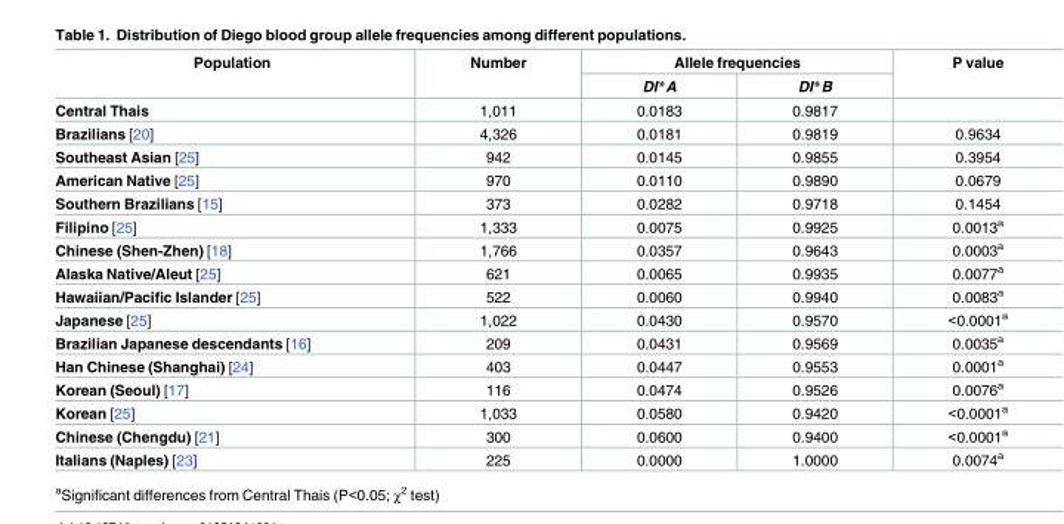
<table><thead><tr><td rowspan="2">Population</td><td rowspan="2">Number</td><td colspan="2">Allele frequencies</td><td rowspan="2">P value</td></tr><tr><td>DI*A</td><td>DI*B</td></tr></thead><tbody><tr><td>Central Thais</td><td>1,011</td><td>0.0183</td><td>0.9817</td><td></td></tr><tr><td>Brazilians [20]</td><td>4,326</td><td>0.0181</td><td>0.9819</td><td>0.9634</td></tr><tr><td>Southeast Asian [25]</td><td>942</td><td>0.0145</td><td>0.9855</td><td>0.3954</td></tr><tr><td>American Native [25]</td><td>970</td><td>0.0110</td><td>0.9890</td><td>0.0679</td></tr><tr><td>Southern Brazilians [15]</td><td>373</td><td>0.0282</td><td>0.9718</td><td>0.1454</td></tr><tr><td>Filipino [25]</td><td>1,333</td><td>0.0075</td><td>0.9925</td><td>0.0013<sup>a</sup></td></tr><tr><td>Chinese (Shen-Zhen) [18]</td><td>1,766</td><td>0.0357</td><td>0.9643</td><td>0.0003<sup>a</sup></td></tr><tr><td>Alaska Native/Aleut [25]</td><td>621</td><td>0.0065</td><td>0.9935</td><td>0.0077<sup>a</sup></td></tr><tr><td>Hawaiian/Pacific Islander [25]</td><td>522</td><td>0.0060</td><td>0.9940</td><td>0.0083<sup>a</sup></td></tr><tr><td>Japanese [25]</td><td>1,022</td><td>0.0430</td><td>0.9570</td><td>&lt;0.0001<sup>a</sup></td></tr><tr><td>Brazilian Japanese descendants [16]</td><td>209</td><td>0.0431</td><td>0.9569</td><td>0.0035<sup>a</sup></td></tr><tr><td>Han Chinese (Shanghai) [24]</td><td>403</td><td>0.0447</td><td>0.9553</td><td>0.0001<sup>a</sup></td></tr><tr><td>Korean (Seoul) [17]</td><td>116</td><td>0.0474</td><td>0.9526</td><td>0.0076<sup>a</sup></td></tr><tr><td>Korean [25]</td><td>1,033</td><td>0.0580</td><td>0.9420</td><td>&lt;0.0001<sup>a</sup></td></tr><tr><td>Chinese (Chengdu) [21]</td><td>300</td><td>0.0600</td><td>0.9400</td><td>&lt;0.0001<sup>a</sup></td></tr><tr><td>Italians (Naples) [23]</td><td>225</td><td>0.0000</td><td>1.0000</td><td>0.0074<sup>a</sup></td></tr></tbody></table>